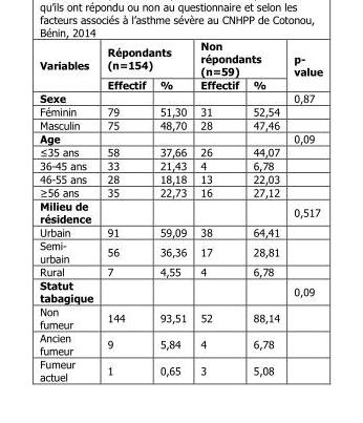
<table><thead><tr><td rowspan="2">Variables</td><td colspan="2">Répondants (n=154)</td><td colspan="2">Non répondants (n=59)</td><td rowspan="2">p- value</td></tr><tr><td>Effectif</td><td>%</td><td>Effectif</td><td>%</td></tr></thead><tbody><tr><td>Sexe</td><td></td><td></td><td></td><td></td><td>0,87</td></tr><tr><td>Féminin</td><td>79</td><td>51,30</td><td>31</td><td>52,54</td><td></td></tr><tr><td>Masculin</td><td>75</td><td>48,70</td><td>28</td><td>47,46</td><td></td></tr><tr><td>Age</td><td></td><td></td><td></td><td></td><td>0,09</td></tr><tr><td>≤35 ans</td><td>58</td><td>37,66</td><td>26</td><td>44,07</td><td></td></tr><tr><td>36-45 ans</td><td>33</td><td>21,43</td><td>4</td><td>6,78</td><td></td></tr><tr><td>46-55 ans</td><td>28</td><td>18,18</td><td>13</td><td>22,03</td><td></td></tr><tr><td>≥56 ans</td><td>35</td><td>22,73</td><td>16</td><td>27,12</td><td></td></tr><tr><td>Milieu de résidence</td><td></td><td></td><td></td><td></td><td>0,517</td></tr><tr><td>Urbain</td><td>91</td><td>59,09</td><td>38</td><td>64,41</td><td></td></tr><tr><td>Semi- urbain</td><td>56</td><td>36,36</td><td>17</td><td>28,81</td><td></td></tr><tr><td>Rural</td><td>7</td><td>4,55</td><td>4</td><td>6,78</td><td></td></tr><tr><td>Statut tabagique</td><td></td><td></td><td></td><td></td><td>0,09</td></tr><tr><td>Non fumeur</td><td>144</td><td>93,51</td><td>52</td><td>88,14</td><td></td></tr><tr><td>Ancien fumeur</td><td>9</td><td>5,84</td><td>4</td><td>6,78</td><td></td></tr><tr><td>Fumeur actuel</td><td>1</td><td>0,65</td><td>3</td><td>5,08</td><td></td></tr></tbody></table>